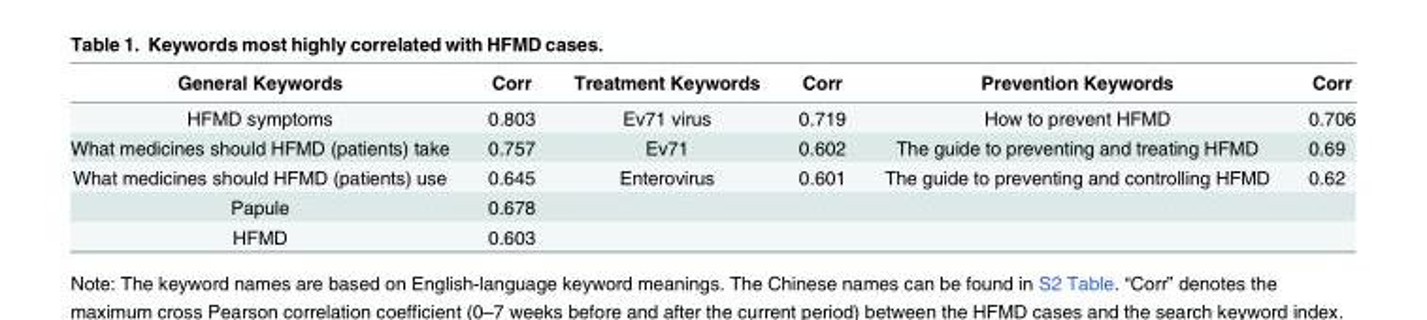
<table><thead><tr><td>General Keywords</td><td>Corr</td><td>Treatment Keywords</td><td>Corr</td><td>Prevention Keywords</td><td>Corr</td></tr></thead><tbody><tr><td>HFMD symptoms</td><td>0.803</td><td>Ev71 virus</td><td>0.719</td><td>How to prevent HFMD</td><td>0.706</td></tr><tr><td>What medicines should HFMD (patients) take</td><td>0.757</td><td>Ev71</td><td>0.602</td><td>The guide to preventing and treating HFMD</td><td>0.69</td></tr><tr><td>What medicines should HFMD (patients) use</td><td>0.645</td><td>Enterovirus</td><td>0.601</td><td>The guide to preventing and controlling HFMD</td><td>0.62</td></tr><tr><td>Papule</td><td>0.678</td><td></td><td></td><td></td><td></td></tr><tr><td>HFMD</td><td>0.603</td><td></td><td></td><td></td><td></td></tr></tbody></table>